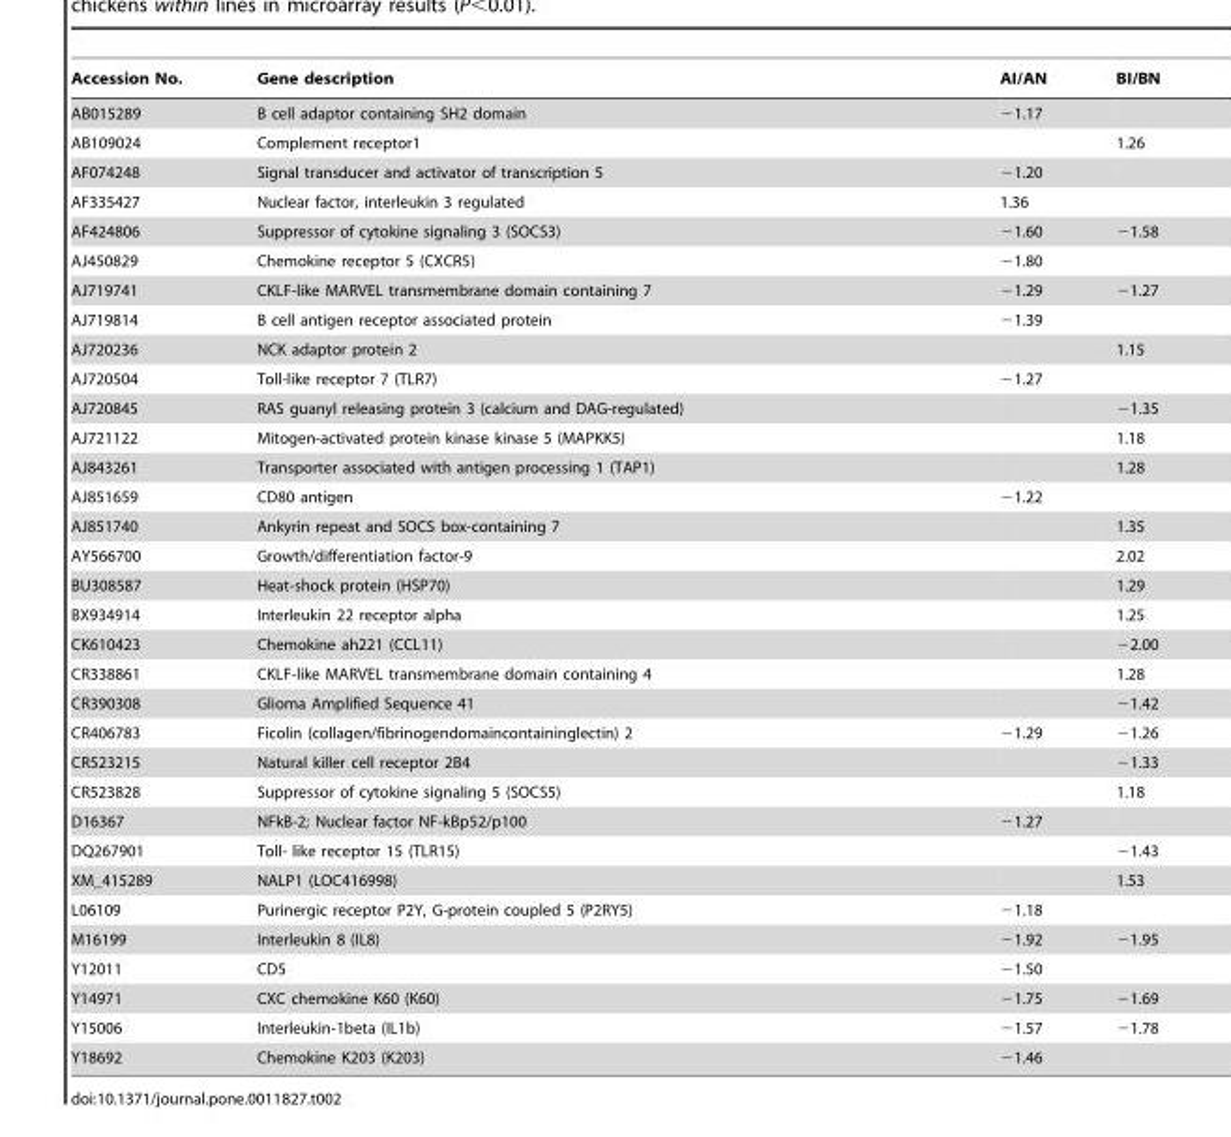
<table><thead><tr><td>Accession No.</td><td>Gene description</td><td>AI/AN</td><td>BI/BN</td></tr></thead><tbody><tr><td>AB015289</td><td>B cell adaptor containing SH2 domain</td><td>−1.17</td><td></td></tr><tr><td>AB109024</td><td>Complement receptor1</td><td></td><td>1.26</td></tr><tr><td>AF074248</td><td>Signal transducer and activator of transcription 5</td><td>−1.20</td><td></td></tr><tr><td>AF335427</td><td>Nuclear factor, interleukin 3 regulated</td><td>1.36</td><td></td></tr><tr><td>AF424806</td><td>Suppressor of cytokine signaling 3 (SOCS3)</td><td>−1.60</td><td>−1.58</td></tr><tr><td>AJ450829</td><td>Chemokine receptor 5 (CXCR5)</td><td>−1.80</td><td></td></tr><tr><td>AJ719741</td><td>CKLF-like MARVEL transmembrane domain containing 7</td><td>−1.29</td><td>−1.27</td></tr><tr><td>AJ719814</td><td>B cell antigen receptor associated protein</td><td>−1.39</td><td></td></tr><tr><td>AJ720236</td><td>NCK adaptor protein 2</td><td></td><td>1.15</td></tr><tr><td>AJ720504</td><td>Toll-like receptor 7 (TLR7)</td><td>−1.27</td><td></td></tr><tr><td>AJ720845</td><td>RAS guanyl releasing protein 3 (calcium and DAG-regulated)</td><td></td><td>−1.35</td></tr><tr><td>AJ721122</td><td>Mitogen-activated protein kinase kinase 5 (MAPKK5)</td><td></td><td>1.18</td></tr><tr><td>AJ843261</td><td>Transporter associated with antigen processing 1 (TAP1)</td><td></td><td>1.28</td></tr><tr><td>AJ851659</td><td>CD80 antigen</td><td>−1.22</td><td></td></tr><tr><td>AJ851740</td><td>Ankyrin repeat and SOCS box-containing 7</td><td></td><td>1.35</td></tr><tr><td>AY566700</td><td>Growth/differentiation factor-9</td><td></td><td>2.02</td></tr><tr><td>BU308587</td><td>Heat-shock protein (HSP70)</td><td></td><td>1.29</td></tr><tr><td>BX934914</td><td>Interleukin 22 receptor alpha</td><td></td><td>1.25</td></tr><tr><td>CK610423</td><td>Chemokine ah221 (CCL11)</td><td></td><td>−2.00</td></tr><tr><td>CR338861</td><td>CKLF-like MARVEL transmembrane domain containing 4</td><td></td><td>1.28</td></tr><tr><td>CR390308</td><td>Glioma Amplified Sequence 41</td><td></td><td>−1.42</td></tr><tr><td>CR406783</td><td>Ficolin (collagen/fibrinogendomaincontaininglectin) 2</td><td>−1.29</td><td>−1.26</td></tr><tr><td>CR523215</td><td>Natural killer cell receptor 2B4</td><td></td><td>−1.33</td></tr><tr><td>CR523828</td><td>Suppressor of cytokine signaling 5 (SOCS5)</td><td></td><td>1.18</td></tr><tr><td>D16367</td><td>NFkB-2; Nuclear factor NF-kBp52/p100</td><td>−1.27</td><td></td></tr><tr><td>DQ267901</td><td>Toll- like receptor 15 (TLR15)</td><td></td><td>−1.43</td></tr><tr><td>XM_415289</td><td>NALP1 (LOC416998)</td><td></td><td>1.53</td></tr><tr><td>L06109</td><td>Purinergic receptor P2Y, G-protein coupled 5 (P2RY5)</td><td>−1.18</td><td></td></tr><tr><td>M16199</td><td>Interleukin 8 (IL8)</td><td>−1.92</td><td>−1.95</td></tr><tr><td>Y12011</td><td>CD5</td><td>−1.50</td><td></td></tr><tr><td>Y14971</td><td>CXC chemokine K60 (K60)</td><td>−1.75</td><td>−1.69</td></tr><tr><td>Y15006</td><td>Interleukin-1beta (IL1b)</td><td>−1.57</td><td>−1.78</td></tr><tr><td>Y18692</td><td>Chemokine K203 (K203)</td><td>−1.46</td><td></td></tr></tbody></table>